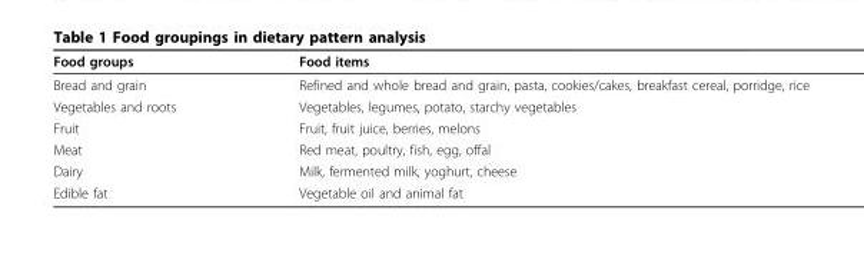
<table><thead><tr><td>Food groups</td><td>Food items</td></tr></thead><tbody><tr><td>Bread and grain</td><td>Refined and whole bread and grain, pasta, cookies/cakes, breakfast cereal, porridge, rice</td></tr><tr><td>Vegetables and roots</td><td>Vegetables, legumes, potato, starchy vegetables</td></tr><tr><td>Fruit</td><td>Fruit, fruit juice, berries, melons</td></tr><tr><td>Meat</td><td>Red meat, poultry, fish, egg, offal</td></tr><tr><td>Dairy</td><td>Milk, fermented milk, yoghurt, cheese</td></tr><tr><td>Edible fat</td><td>Vegetable oil and animal fat</td></tr></tbody></table>